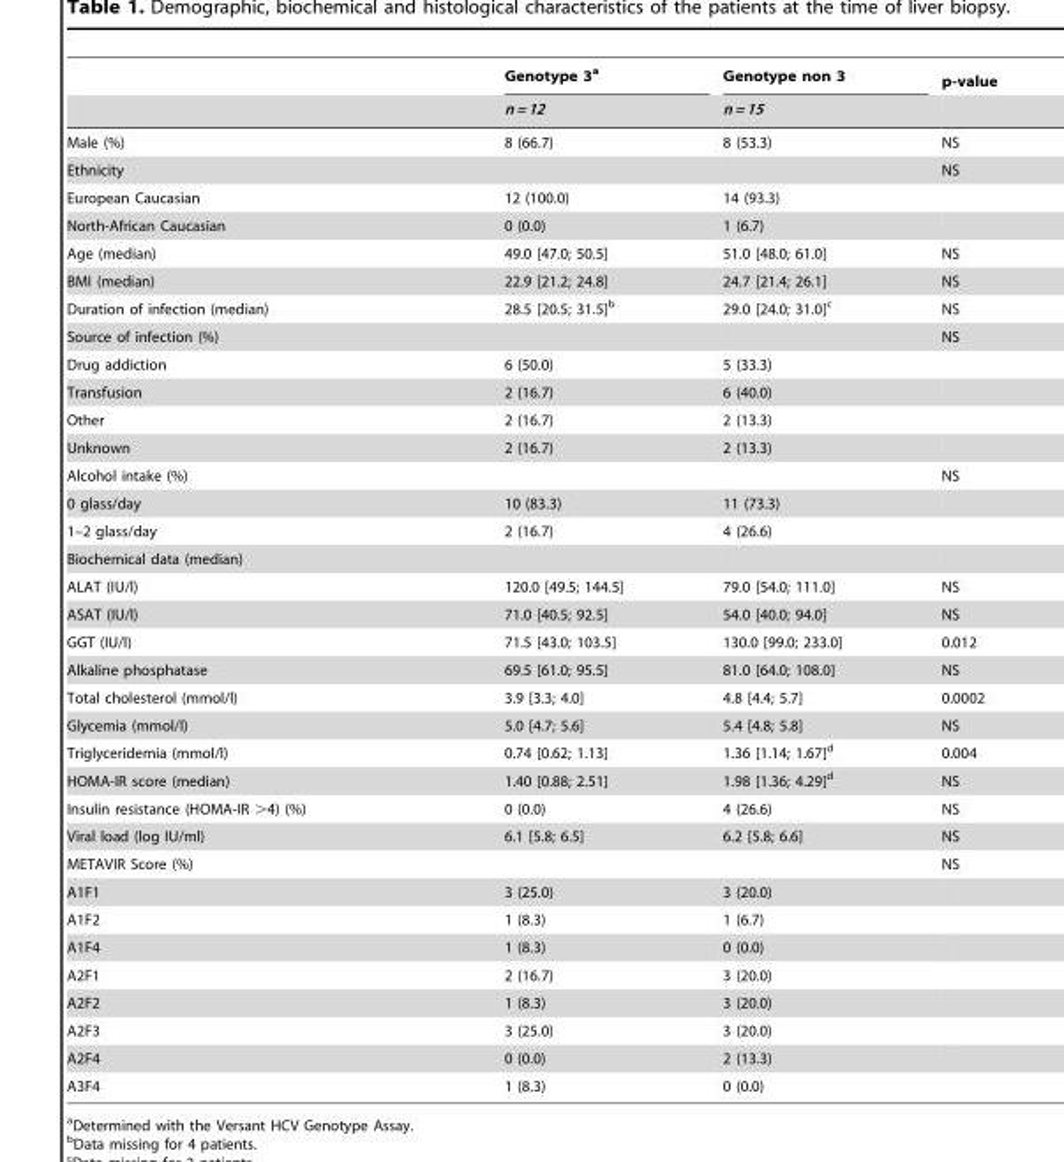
<table><thead><tr><td rowspan="2"></td><td rowspan="2">Genotype 3<sup>a</sup> n = 12</td><td rowspan="2">Genotype non 3 n = 15</td><td rowspan="2">p-value</td></tr><tr></tr></thead><tbody><tr><td>Male (%)</td><td>8 (66.7)</td><td>8 (53.3)</td><td>NS</td></tr><tr><td>Ethnicity</td><td></td><td></td><td>NS</td></tr><tr><td>European Caucasian</td><td>12 (100.0)</td><td>14 (93.3)</td><td></td></tr><tr><td>North-African Caucasian</td><td>0 (0.0)</td><td>1 (6.7)</td><td></td></tr><tr><td>Age (median)</td><td>49.0 [47.0; 50.5]</td><td>51.0 [48.0; 61.0]</td><td>NS</td></tr><tr><td>BMI (median)</td><td>22.9 [21.2; 24.8]</td><td>24.7 [21.4; 26.1]</td><td>NS</td></tr><tr><td>Duration of infection (median)</td><td>28.5 [20.5; 31.5]<sup>b</sup></td><td>29.0 [24.0; 31.0]<sup>c</sup></td><td>NS</td></tr><tr><td>Source of infection (%)</td><td></td><td></td><td>NS</td></tr><tr><td>Drug addiction</td><td>6 (50.0)</td><td>5 (33.3)</td><td></td></tr><tr><td>Transfusion</td><td>2 (16.7)</td><td>6 (40.0)</td><td></td></tr><tr><td>Other</td><td>2 (16.7)</td><td>2 (13.3)</td><td></td></tr><tr><td>Unknown</td><td>2 (16.7)</td><td>2 (13.3)</td><td></td></tr><tr><td>Alcohol intake (%)</td><td></td><td></td><td>NS</td></tr><tr><td>0 glass/day</td><td>10 (83.3)</td><td>11 (73.3)</td><td></td></tr><tr><td>1–2 glass/day</td><td>2 (16.7)</td><td>4 (26.6)</td><td></td></tr><tr><td colspan="4">Biochemical data (median)</td></tr><tr><td>ALAT (IU/l)</td><td>120.0 [49.5; 144.5]</td><td>79.0 [54.0; 111.0]</td><td>NS</td></tr><tr><td>ASAT (IU/l)</td><td>71.0 [40.5; 92.5]</td><td>54.0 [40.0; 94.0]</td><td>NS</td></tr><tr><td>GGT (IU/l)</td><td>71.5 [43.0; 103.5]</td><td>130.0 [99.0; 233.0]</td><td>0.012</td></tr><tr><td>Alkaline phosphatase</td><td>69.5 [61.0; 95.5]</td><td>81.0 [64.0; 108.0]</td><td>NS</td></tr><tr><td>Total cholesterol (mmol/l)</td><td>3.9 [3.3; 4.0]</td><td>4.8 [4.4; 5.7]</td><td>0.0002</td></tr><tr><td>Glycemia (mmol/l)</td><td>5.0 [4.7; 5.6]</td><td>5.4 [4.8; 5.8]</td><td>NS</td></tr><tr><td>Triglyceridemia (mmol/l)</td><td>0.74 [0.62; 1.13]</td><td>1.36 [1.14; 1.67]<sup>d</sup></td><td>0.004</td></tr><tr><td>HOMA-IR score (median)</td><td>1.40 [0.88; 2.51]</td><td>1.98 [1.36; 4.29]<sup>d</sup></td><td>NS</td></tr><tr><td>Insulin resistance (HOMA-IR &gt;4) (%)</td><td>0 (0.0)</td><td>4 (26.6)</td><td>NS</td></tr><tr><td>Viral load (log IU/ml)</td><td>6.1 [5.8; 6.5]</td><td>6.2 [5.8; 6.6]</td><td>NS</td></tr><tr><td>METAVIR Score (%)</td><td></td><td></td><td>NS</td></tr><tr><td>A1F1</td><td>3 (25.0)</td><td>3 (20.0)</td><td></td></tr><tr><td>A1F2</td><td>1 (8.3)</td><td>1 (6.7)</td><td></td></tr><tr><td>A1F4</td><td>1 (8.3)</td><td>0 (0.0)</td><td></td></tr><tr><td>A2F1</td><td>2 (16.7)</td><td>3 (20.0)</td><td></td></tr><tr><td>A2F2</td><td>1 (8.3)</td><td>3 (20.0)</td><td></td></tr><tr><td>A2F3</td><td>3 (25.0)</td><td>3 (20.0)</td><td></td></tr><tr><td>A2F4</td><td>0 (0.0)</td><td>2 (13.3)</td><td></td></tr><tr><td>A3F4</td><td>1 (8.3)</td><td>0 (0.0)</td><td></td></tr></tbody></table>